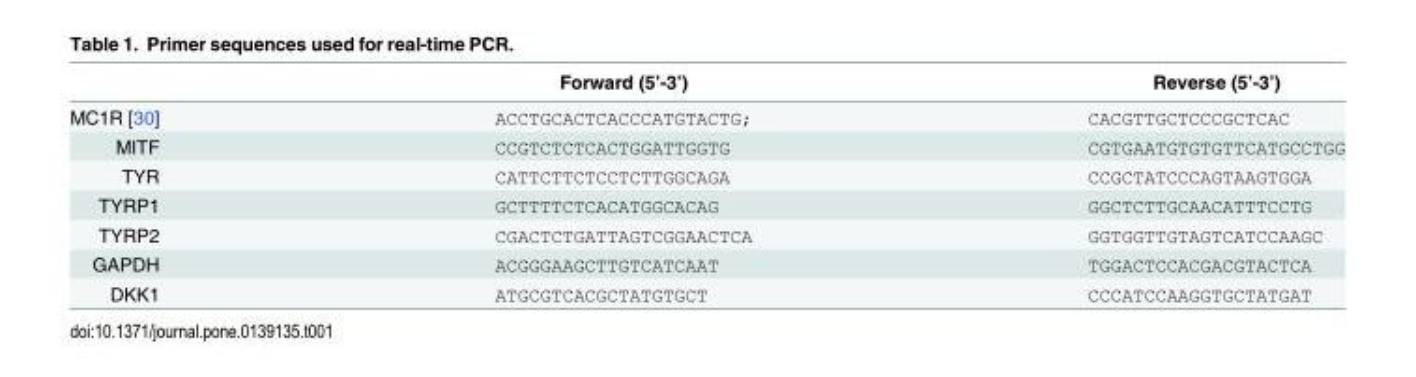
<table><thead><tr><td></td><td>Forward (5’-3’)</td><td>Reverse (5’-3’)</td></tr></thead><tbody><tr><td>MC1R [30]</td><td>ACCTGCACTCACCCATGTACTG;</td><td>CACGTTGCTCCCGCTCAC</td></tr><tr><td>MITF</td><td>CCGTCTCTCACTGGATTGGTG</td><td>CGTGAATGTGTGTTCATGCCTGG</td></tr><tr><td>TYR</td><td>CATTCTTCTCCTCTTGGCAGA</td><td>CCGCTATCCCAGTAAGTGGA</td></tr><tr><td>TYRP1</td><td>GCTTTTCTCACATGGCACAG</td><td>GGCTCTTGCAACATTTCCTG</td></tr><tr><td>TYRP2</td><td>CGACTCTGATTAGTCGGAACTCA</td><td>GGTGGTTGTAGTCATCCAAGC</td></tr><tr><td>GAPDH</td><td>ACGGGAAGCTTGTCATCAAT</td><td>TGGACTCCACGACGTACTCA</td></tr><tr><td>DKK1</td><td>ATGCGTCACGCTATGTGCT</td><td>CCCATCCAAGGTGCTATGAT</td></tr></tbody></table>